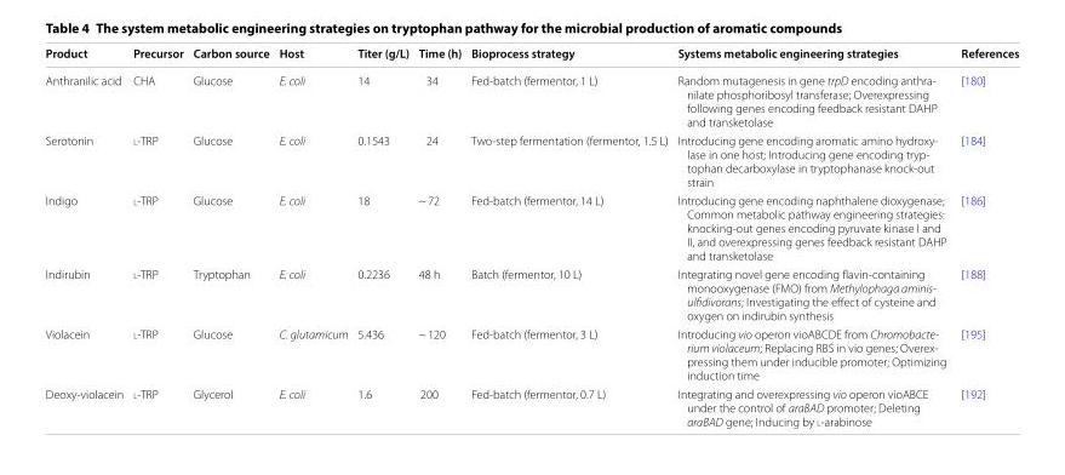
<table><thead><tr><td>Product</td><td>Precursor</td><td>Carbon source</td><td>Host</td><td>Titer (g/L)</td><td>Time (h)</td><td>Bioprocess strategy</td><td>Systems metabolic engineering strategies</td><td>References</td></tr></thead><tbody><tr><td>Anthranilic acid</td><td>CHA</td><td>Glucose</td><td>E. coli</td><td>14</td><td>34</td><td>Fed-batch (fermentor, 1 L)</td><td>Random mutagenesis in gene trpD encoding anthra- nilate phosphoribosyl transferase; Overexpressing following genes encoding feedback resistant DAHP and transketolase</td><td>[180]</td></tr><tr><td>Serotonin</td><td>l-TRP</td><td>Glucose</td><td>E. coli</td><td>0.1543</td><td>24</td><td>Two-step fermentation (fermentor, 1.5 L)</td><td>Introducing gene encoding aromatic amino hydroxy- lase in one host; Introducing gene encoding tryp- tophan decarboxylase in tryptophanase knock-out strain</td><td>[184]</td></tr><tr><td>Indigo</td><td>l-TRP</td><td>Glucose</td><td>E. coli</td><td>18</td><td>~ 72</td><td>Fed-batch (fermentor, 14 L)</td><td>Introducing gene encoding naphthalene dioxygenase; Common metabolic pathway engineering strategies: knocking-out genes encoding pyruvate kinase I and II, and overexpressing genes feedback resistant DAHP and transketolase</td><td>[186]</td></tr><tr><td>Indirubin</td><td>l-TRP</td><td>Tryptophan</td><td>E. coli</td><td>0.2236</td><td>48 h</td><td>Batch (fermentor, 10 L)</td><td>Integrating novel gene encoding flavin-containing monooxygenase (FMO) from Methylophaga aminis- ulfidivorans; Investigating the effect of cysteine and oxygen on indirubin synthesis</td><td>[188]</td></tr><tr><td>Violacein</td><td>l-TRP</td><td>Glucose</td><td>C. glutamicum</td><td>5.436</td><td>~ 120</td><td>Fed-batch (fermentor, 3 L)</td><td>Introducing vio operon vioABCDE from Chromobacte- rium violaceum; Replacing RBS in vio genes; Overex- pressing them under inducible promoter; Optimizing induction time</td><td>[195]</td></tr><tr><td>Deoxy-violacein</td><td>l-TRP</td><td>Glycerol</td><td>E. coli</td><td>1.6</td><td>200</td><td>Fed-batch (fermentor, 0.7 L)</td><td>Integrating and overexpressing vio operon vioABCE under the control of araBAD promoter; Deleting araBAD gene; Inducing by l-arabinose</td><td>[192]</td></tr></tbody></table>